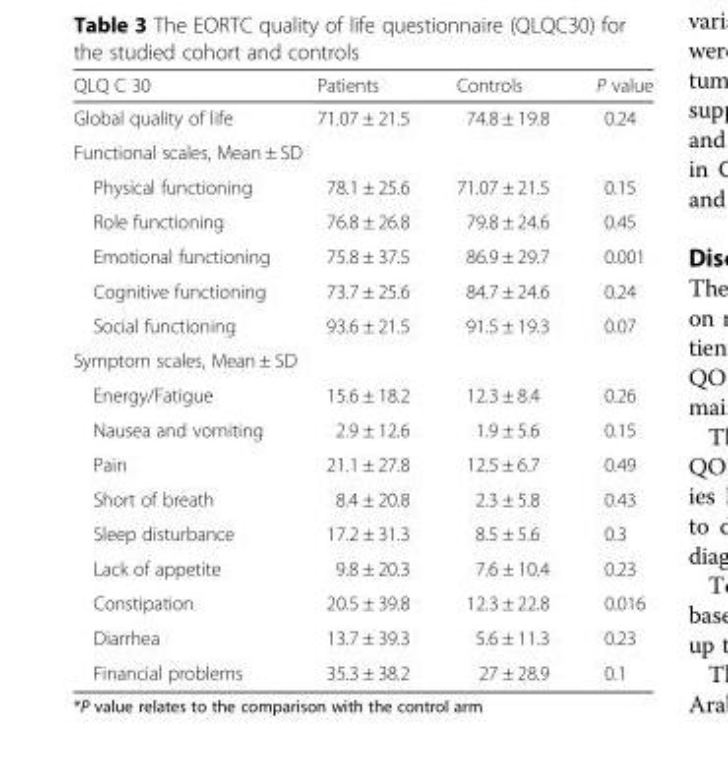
<table><thead><tr><td>QLQ C 30</td><td>Patients</td><td>Controls</td><td>P value</td></tr></thead><tbody><tr><td>Global quality of life</td><td>71.07 ± 21.5</td><td>74.8 ± 19.8</td><td>0.24</td></tr><tr><td colspan="4">Functional scales, Mean ± SD</td></tr><tr><td>Physical functioning</td><td>78.1 ± 25.6</td><td>71.07 ± 21.5</td><td>0.15</td></tr><tr><td>Role functioning</td><td>76.8 ± 26.8</td><td>79.8 ± 24.6</td><td>0.45</td></tr><tr><td>Emotional functioning</td><td>75.8 ± 37.5</td><td>86.9 ± 29.7</td><td>0.001</td></tr><tr><td>Cognitive functioning</td><td>73.7 ± 25.6</td><td>84.7 ± 24.6</td><td>0.24</td></tr><tr><td>Social functioning</td><td>93.6 ± 21.5</td><td>91.5 ± 19.3</td><td>0.07</td></tr><tr><td colspan="4">Symptom scales, Mean ± SD</td></tr><tr><td>Energy/Fatigue</td><td>15.6 ± 18.2</td><td>12.3 ± 8.4</td><td>0.26</td></tr><tr><td>Nausea and vomiting</td><td>2.9 ± 12.6</td><td>1.9 ± 5.6</td><td>0.15</td></tr><tr><td>Pain</td><td>21.1 ± 27.8</td><td>12.5 ± 6.7</td><td>0.49</td></tr><tr><td>Short of breath</td><td>8.4 ± 20.8</td><td>2.3 ± 5.8</td><td>0.43</td></tr><tr><td>Sleep disturbance</td><td>17.2 ± 31.3</td><td>8.5 ± 5.6</td><td>0.3</td></tr><tr><td>Lack of appetite</td><td>9.8 ± 20.3</td><td>7.6 ± 10.4</td><td>0.23</td></tr><tr><td>Constipation</td><td>20.5 ± 39.8</td><td>12.3 ± 22.8</td><td>0.016</td></tr><tr><td>Diarrhea</td><td>13.7 ± 39.3</td><td>5.6 ± 11.3</td><td>0.23</td></tr><tr><td>Financial problems</td><td>35.3 ± 38.2</td><td>27 ± 28.9</td><td>0.1</td></tr></tbody></table>